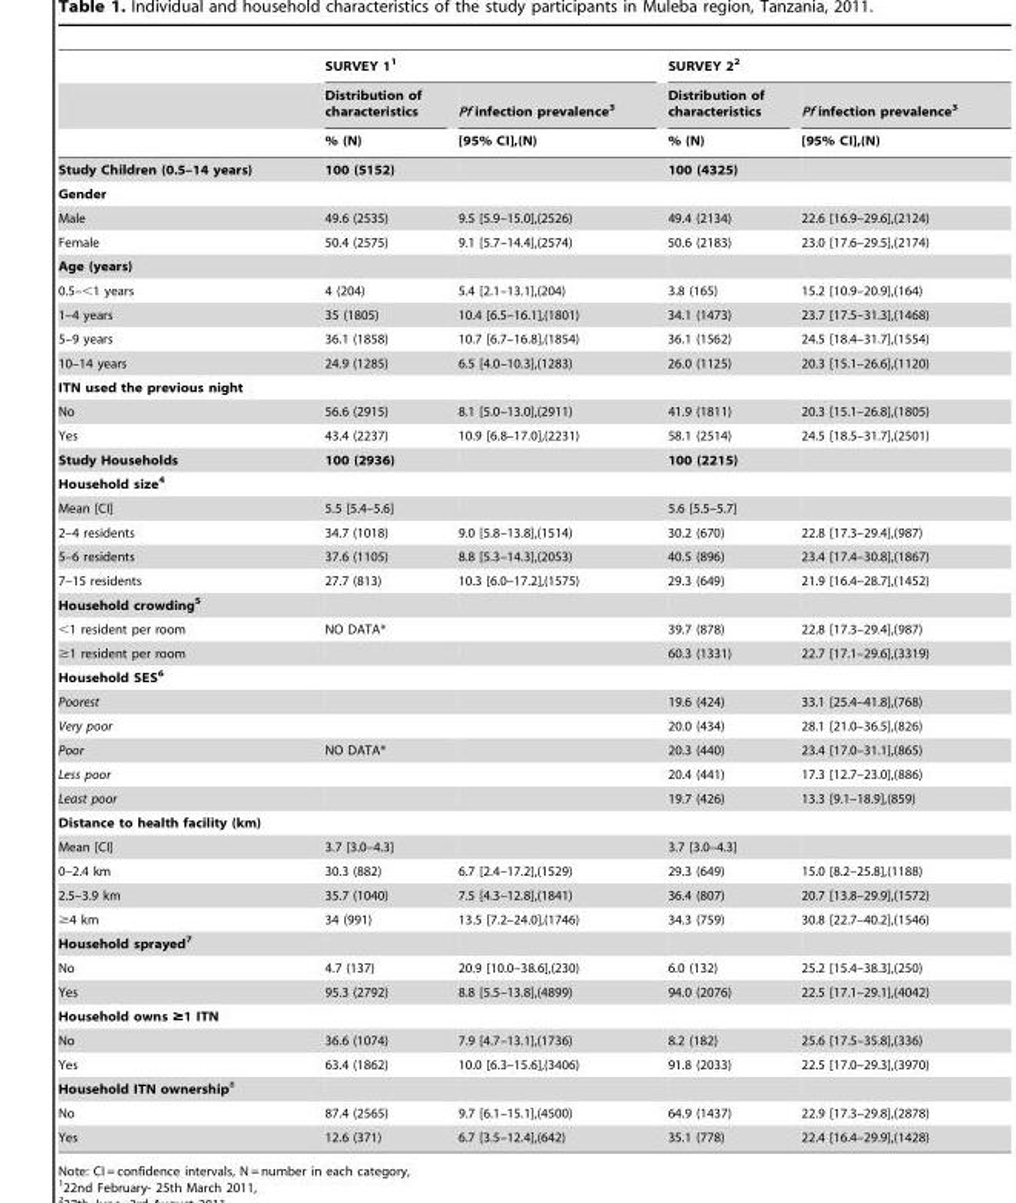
<table><thead><tr><td rowspan="3"></td><td colspan="2">SURVEY 1<sup>1</sup></td><td colspan="2">SURVEY 2<sup>2</sup></td></tr><tr><td rowspan="2">Distribution of characteristics % (N)</td><td rowspan="2">Pf infection prevalence<sup>3</sup> [95% CI],(N)</td><td rowspan="2">Distribution of characteristics % (N)</td><td rowspan="2">Pf infection prevalence<sup>3</sup> [95% CI],(N)</td></tr><tr></tr></thead><tbody><tr><td>Study Children (0.5–14 years)</td><td>100 (5152)</td><td></td><td>100 (4325)</td><td></td></tr><tr><td colspan="5">Gender</td></tr><tr><td>Male</td><td>49.6 (2535)</td><td>9.5 [5.9–15.0],(2526)</td><td>49.4 (2134)</td><td>22.6 [16.9–29.6],(2124)</td></tr><tr><td>Female</td><td>50.4 (2575)</td><td>9.1 [5.7–14.4],(2574)</td><td>50.6 (2183)</td><td>23.0 [17.6–29.5],(2174)</td></tr><tr><td colspan="5">Age (years)</td></tr><tr><td>0.5–&lt;1 years</td><td>4 (204)</td><td>5.4 [2.1–13.1],(204)</td><td>3.8 (165)</td><td>15.2 [10.9–20.9],(164)</td></tr><tr><td>1–4 years</td><td>35 (1805)</td><td>10.4 [6.5–16.1],(1801)</td><td>34.1 (1473)</td><td>23.7 [17.5–31.3],(1468)</td></tr><tr><td>5–9 years</td><td>36.1 (1858)</td><td>10.7 [6.7–16.8],(1854)</td><td>36.1 (1562)</td><td>24.5 [18.4–31.7],(1554)</td></tr><tr><td>10–14 years</td><td>24.9 (1285)</td><td>6.5 [4.0–10.3],(1283)</td><td>26.0 (1125)</td><td>20.3 [15.1–26.6],(1120)</td></tr><tr><td colspan="5">ITN used the previous night</td></tr><tr><td>No</td><td>56.6 (2915)</td><td>8.1 [5.0–13.0],(2911)</td><td>41.9 (1811)</td><td>20.3 [15.1–26.8],(1805)</td></tr><tr><td>Yes</td><td>43.4 (2237)</td><td>10.9 [6.8–17.0],(2231)</td><td>58.1 (2514)</td><td>24.5 [18.5–31.7],(2501)</td></tr><tr><td>Study Households</td><td>100 (2936)</td><td></td><td>100 (2215)</td><td></td></tr><tr><td colspan="5">Household size4</td></tr><tr><td>Mean [CI]</td><td>5.5 [5.4–5.6]</td><td></td><td>5.6 [5.5–5.7]</td><td></td></tr><tr><td>2–4 residents</td><td>34.7 (1018)</td><td>9.0 [5.8–13.8],(1514)</td><td>30.2 (670)</td><td>22.8 [17.3–29.4],(987)</td></tr><tr><td>5–6 residents</td><td>37.6 (1105)</td><td>8.8 [5.3–14.3],(2053)</td><td>40.5 (896)</td><td>23.4 [17.4–30.8],(1867)</td></tr><tr><td>7–15 residents</td><td>27.7 (813)</td><td>10.3 [6.0–17.2],(1575)</td><td>29.3 (649)</td><td>21.9 [16.4–28.7],(1452)</td></tr><tr><td colspan="5">Household crowding5</td></tr><tr><td>&lt;1 resident per room</td><td>NO DATA*</td><td></td><td>39.7 (878)</td><td>22.8 [17.3–29.4],(987)</td></tr><tr><td>≥1 resident per room</td><td></td><td></td><td>60.3 (1331)</td><td>22.7 [17.1–29.6],(3319)</td></tr><tr><td colspan="5">Household SES6</td></tr><tr><td>Poorest</td><td></td><td></td><td>19.6 (424)</td><td>33.1 [25.4–41.8],(768)</td></tr><tr><td>Very poor</td><td></td><td></td><td>20.0 (434)</td><td>28.1 [21.0–36.5],(826)</td></tr><tr><td>Poor</td><td>NO DATA*</td><td></td><td>20.3 (440)</td><td>23.4 [17.0–31.1],(865)</td></tr><tr><td>Less poor</td><td></td><td></td><td>20.4 (441)</td><td>17.3 [12.7–23.0],(886)</td></tr><tr><td>Least poor</td><td></td><td></td><td>19.7 (426)</td><td>13.3 [9.1–18.9],(859)</td></tr><tr><td colspan="5">Distance to health facility (km)</td></tr><tr><td>Mean [CI]</td><td>3.7 [3.0–4.3]</td><td></td><td>3.7 [3.0–4.3]</td><td></td></tr><tr><td>0–2.4 km</td><td>30.3 (882)</td><td>6.7 [2.4–17.2],(1529)</td><td>29.3 (649)</td><td>15.0 [8.2–25.8],(1188)</td></tr><tr><td>2.5–3.9 km</td><td>35.7 (1040)</td><td>7.5 [4.3–12.8],(1841)</td><td>36.4 (807)</td><td>20.7 [13.8–29.9],(1572)</td></tr><tr><td>≥4 km</td><td>34 (991)</td><td>13.5 [7.2–24.0],(1746)</td><td>34.3 (759)</td><td>30.8 [22.7–40.2],(1546)</td></tr><tr><td colspan="5">Household sprayed7</td></tr><tr><td>No</td><td>4.7 (137)</td><td>20.9 [10.0–38.6],(230)</td><td>6.0 (132)</td><td>25.2 [15.4–38.3],(250)</td></tr><tr><td>Yes</td><td>95.3 (2792)</td><td>8.8 [5.5–13.8],(4899)</td><td>94.0 (2076)</td><td>22.5 [17.1–29.1],(4042)</td></tr><tr><td colspan="5">Household owns ≥1 ITN</td></tr><tr><td>No</td><td>36.6 (1074)</td><td>7.9 [4.7–13.1],(1736)</td><td>8.2 (182)</td><td>25.6 [17.5–35.8],(336)</td></tr><tr><td>Yes</td><td>63.4 (1862)</td><td>10.0 [6.3–15.6],(3406)</td><td>91.8 (2033)</td><td>22.5 [17.0–29.3],(3970)</td></tr><tr><td colspan="5">Household ITN ownership8</td></tr><tr><td>No</td><td>87.4 (2565)</td><td>9.7 [6.1–15.1],(4500)</td><td>64.9 (1437)</td><td>22.9 [17.3–29.8],(2878)</td></tr><tr><td>Yes</td><td>12.6 (371)</td><td>6.7 [3.5–12.4],(642)</td><td>35.1 (778)</td><td>22.4 [16.4–29.9],(1428)</td></tr></tbody></table>